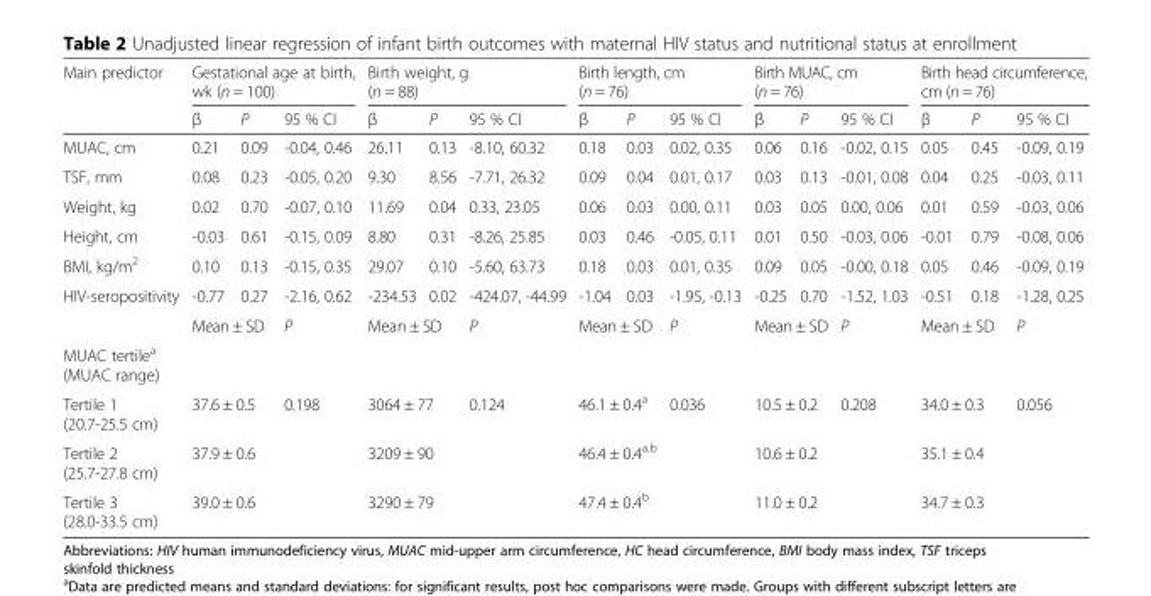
<table><thead><tr><td rowspan="2">Main predictor</td><td colspan="3">Gestational age at birth, wk (n = 100)</td><td colspan="3">Birth weight, g (n = 88)</td><td colspan="3">Birth length, cm (n = 76)</td><td colspan="3">Birth MUAC, cm (n = 76)</td><td colspan="3">Birth head circumference, cm (n = 76)</td></tr><tr><td>β</td><td>P</td><td>95 % CI</td><td>β</td><td>P</td><td>95 % CI</td><td>β</td><td>P</td><td>95 % CI</td><td>β</td><td>P</td><td>95 % CI</td><td>β</td><td>P</td><td>95 % CI</td></tr></thead><tbody><tr><td>MUAC, cm</td><td>0.21</td><td>0.09</td><td>-0.04, 0.46</td><td>26.11</td><td>0.13</td><td>-8.10, 60.32</td><td>0.18</td><td>0.03</td><td>0.02, 0.35</td><td>0.06</td><td>0.16</td><td>-0.02, 0.15</td><td>0.05</td><td>0.45</td><td>-0.09, 0.19</td></tr><tr><td>TSF, mm</td><td>0.08</td><td>0.23</td><td>-0.05, 0.20</td><td>9.30</td><td>8.56</td><td>-7.71, 26.32</td><td>0.09</td><td>0.04</td><td>0.01, 0.17</td><td>0.03</td><td>0.13</td><td>-0.01, 0.08</td><td>0.04</td><td>0.25</td><td>-0.03, 0.11</td></tr><tr><td>Weight, kg</td><td>0.02</td><td>0.70</td><td>-0.07, 0.10</td><td>11.69</td><td>0.04</td><td>0.33, 23.05</td><td>0.06</td><td>0.03</td><td>0.00, 0.11</td><td>0.03</td><td>0.05</td><td>0.00, 0.06</td><td>0.01</td><td>0.59</td><td>-0.03, 0.06</td></tr><tr><td>Height, cm</td><td>-0.03</td><td>0.61</td><td>-0.15, 0.09</td><td>8.80</td><td>0.31</td><td>-8.26, 25.85</td><td>0.03</td><td>0.46</td><td>-0.05, 0.11</td><td>0.01</td><td>0.50</td><td>-0.03, 0.06</td><td>-0.01</td><td>0.79</td><td>-0.08, 0.06</td></tr><tr><td>BMI, kg/m<sup>2</sup></td><td>0.10</td><td>0.13</td><td>-0.15, 0.35</td><td>29.07</td><td>0.10</td><td>-5.60, 63.73</td><td>0.18</td><td>0.03</td><td>0.01, 0.35</td><td>0.09</td><td>0.05</td><td>-0.00, 0.18</td><td>0.05</td><td>0.46</td><td>-0.09, 0.19</td></tr><tr><td rowspan="2">HIV-seropositivity</td><td>-0.77</td><td>0.27</td><td>-2.16, 0.62</td><td>-234.53</td><td>0.02</td><td>-424.07, -44.99</td><td>-1.04</td><td>0.03</td><td>-1.95, -0.13</td><td>-0.25</td><td>0.70</td><td>-1.52, 1.03</td><td>-0.51</td><td>0.18</td><td>-1.28, 0.25</td></tr><tr><td colspan="2">Mean ± SD</td><td>P</td><td colspan="2">Mean ± SD</td><td>P</td><td colspan="2">Mean ± SD</td><td>P</td><td colspan="2">Mean ± SD</td><td>P</td><td colspan="2">Mean ± SD</td><td>P</td></tr><tr><td colspan="16">MUAC tertile<sup>a</sup> (MUAC range)</td></tr><tr><td>Tertile 1 (20.7-25.5 cm)</td><td colspan="2">37.6 ± 0.5</td><td>0.198</td><td colspan="2">3064 ± 77</td><td>0.124</td><td colspan="2">46.1 ± 0.4<sup>a</sup></td><td>0.036</td><td colspan="2">10.5 ± 0.2</td><td>0.208</td><td colspan="2">34.0 ± 0.3</td><td>0.056</td></tr><tr><td>Tertile 2 (25.7-27.8 cm)</td><td colspan="2">37.9 ± 0.6</td><td></td><td colspan="2">3209 ± 90</td><td></td><td colspan="2">46.4 ± 0.4<sup>a,b</sup></td><td></td><td colspan="2">10.6 ± 0.2</td><td></td><td colspan="2">35.1 ± 0.4</td><td></td></tr><tr><td>Tertile 3 (28.0-33.5 cm)</td><td colspan="2">39.0 ± 0.6</td><td></td><td colspan="2">3290 ± 79</td><td></td><td colspan="2">47.4 ± 0.4<sup>b</sup></td><td></td><td colspan="2">11.0 ± 0.2</td><td></td><td colspan="2">34.7 ± 0.3</td><td></td></tr></tbody></table>